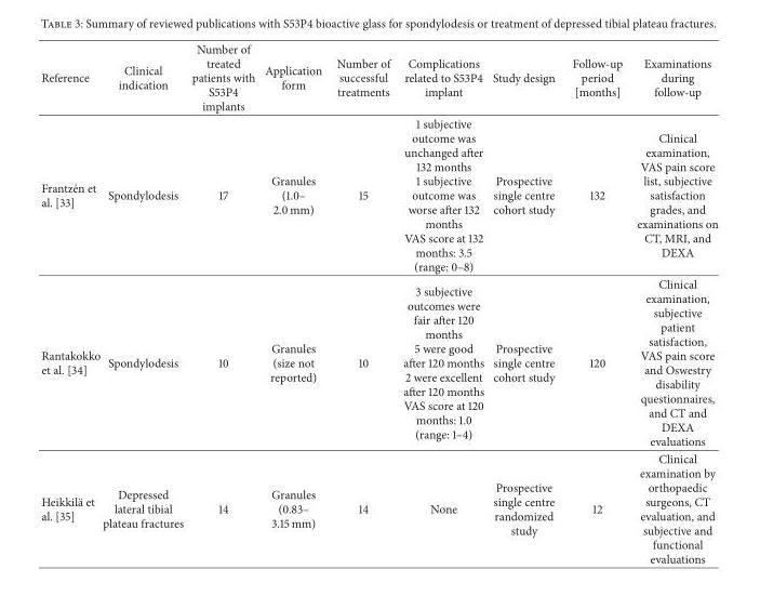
<table><thead><tr><td>Reference</td><td>Clinical indication</td><td>Number of treated patients with S53P4 implants</td><td>Application form</td><td>Number of successful treatments</td><td>Complications related to S53P4 implant</td><td>Study design</td><td>Follow-up period [months]</td><td>Examinations during follow-up</td></tr></thead><tbody><tr><td>Frantz´en et al. [33]</td><td>Spondylodesis</td><td>17</td><td>Granules (1.0– 2.0 mm)</td><td>15</td><td>1 subjective outcome was unchanged after 132 months 1 subjective outcome was worse after 132 months VAS score at 132 months: 3.5 (range: 0–8)</td><td>Prospective single centre cohort study</td><td>132</td><td>Clinical examination, VAS pain score list, subjective satisfaction grades, and examinations on CT, MRI, and DEXA</td></tr><tr><td>Rantakokko et al. [34]</td><td>Spondylodesis</td><td>10</td><td>Granules (size not reported)</td><td>10</td><td>3 subjective outcomes were fair after 120 months 5 were good after 120 months 2 were excellent after 120 months VAS score at 120 months: 1.0 (range: 1–4)</td><td>Prospective single centre cohort study</td><td>120</td><td>Clinical examination, subjective patient satisfaction, VAS pain score and Oswestry disability questionnaires, and CT and DEXA evaluations</td></tr><tr><td>Heikkil¨a et al. [35]</td><td>Depressed lateral tibial plateau fractures</td><td>14</td><td>Granules (0.83– 3.15 mm)</td><td>14</td><td>None</td><td>Prospective single centre randomized study</td><td>12</td><td>Clinical examination by orthopaedic surgeons, CT evaluation, and subjective and functional evaluations</td></tr></tbody></table>